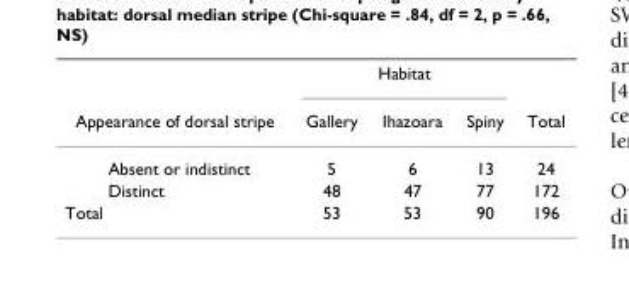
<table><thead><tr><td rowspan="2">Appearance of dorsal stripe</td><td colspan="3">Habitat</td><td rowspan="2">Total</td></tr><tr><td>Gallery</td><td>Ihazoara</td><td>Spiny</td></tr></thead><tbody><tr><td>Absent or indistinct</td><td>5</td><td>6</td><td>13</td><td>24</td></tr><tr><td>Distinct</td><td>48</td><td>47</td><td>77</td><td>172</td></tr><tr><td>Total</td><td>53</td><td>53</td><td>90</td><td>196</td></tr></tbody></table>